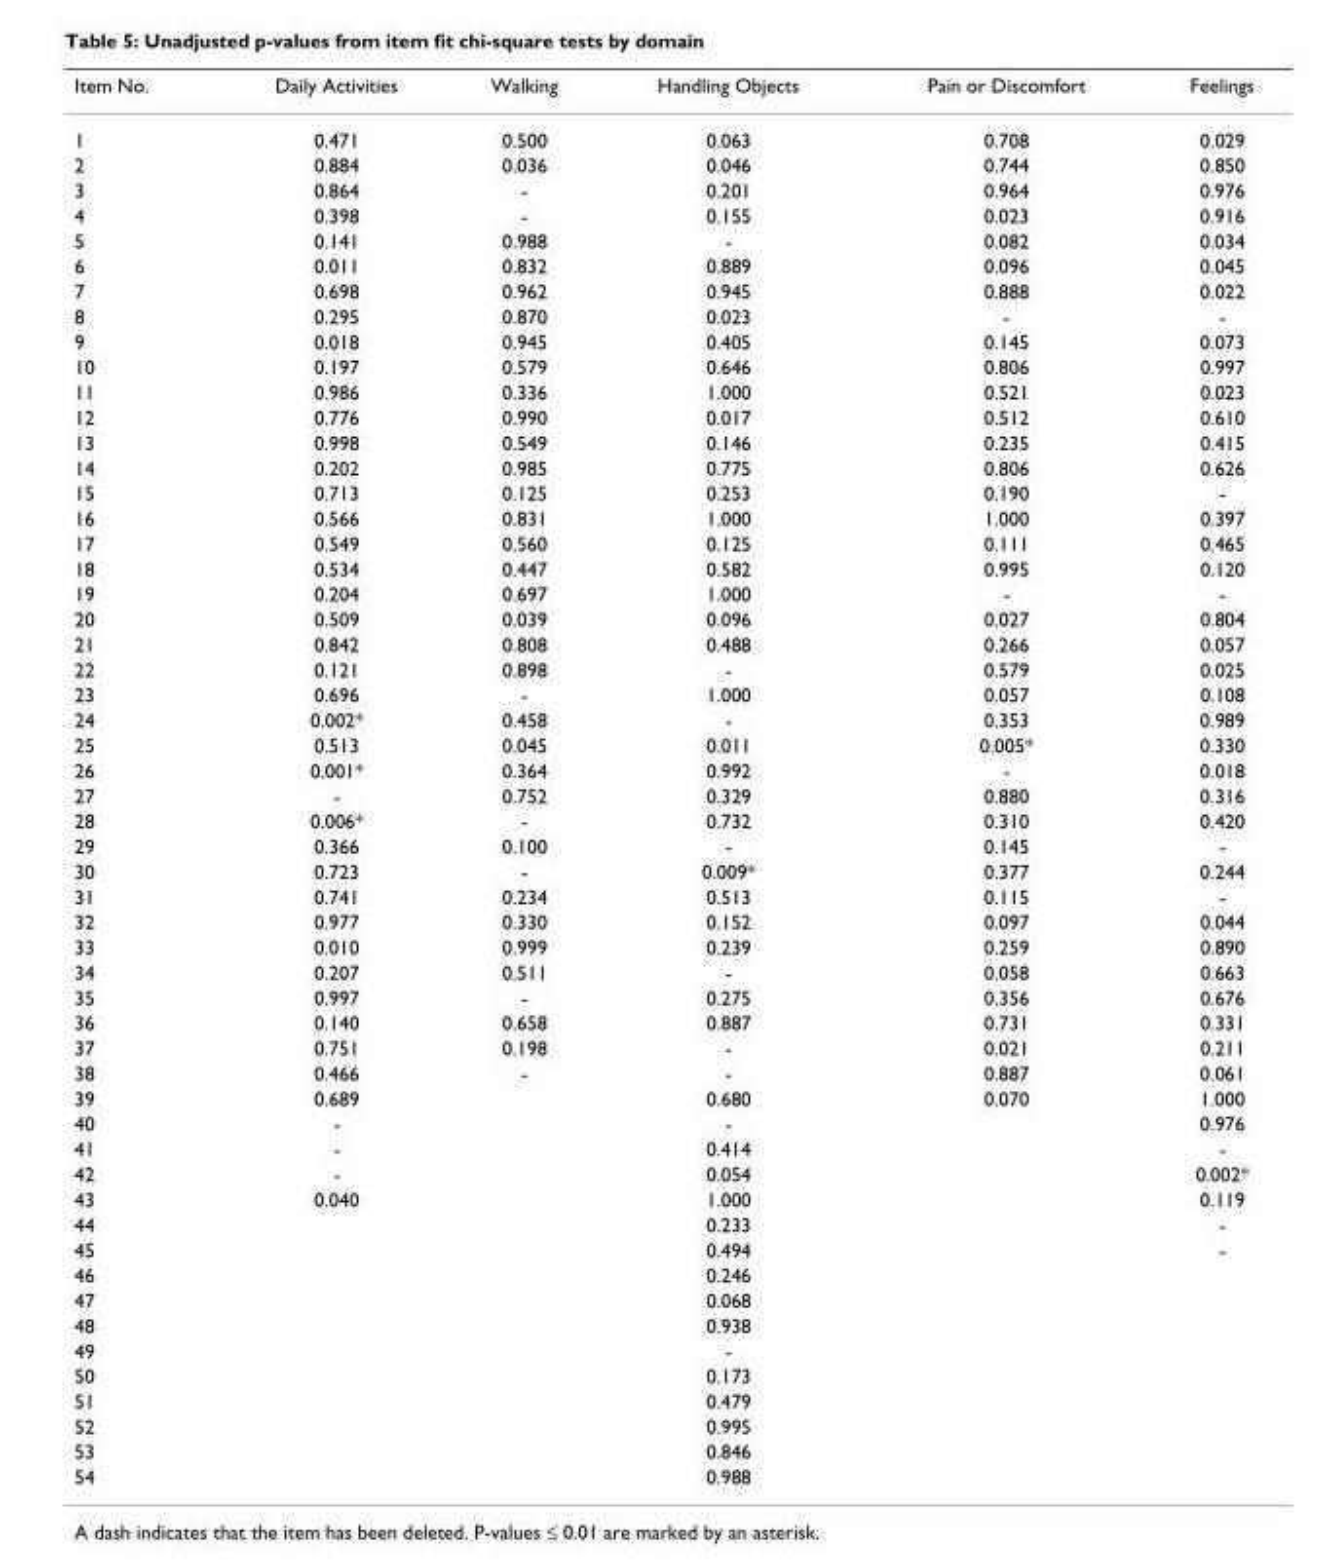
<table><thead><tr><td>Item No.</td><td>Daily Activities</td><td>Walking</td><td>Handling Objects</td><td>Pain or Discomfort</td><td>Feelings</td></tr></thead><tbody><tr><td>1</td><td>0.471</td><td>0.500</td><td>0.063</td><td>0.708</td><td>0.029</td></tr><tr><td>2</td><td>0.884</td><td>0.036</td><td>0.046</td><td>0.744</td><td>0.850</td></tr><tr><td>3</td><td>0.864</td><td>-</td><td>0.201</td><td>0.964</td><td>0.976</td></tr><tr><td>4</td><td>0.398</td><td>-</td><td>0.155</td><td>0.023</td><td>0.916</td></tr><tr><td>5</td><td>0.141</td><td>0.988</td><td>-</td><td>0.082</td><td>0.034</td></tr><tr><td>6</td><td>0.011</td><td>0.832</td><td>0.889</td><td>0.096</td><td>0.045</td></tr><tr><td>7</td><td>0.698</td><td>0.962</td><td>0.945</td><td>0.888</td><td>0.022</td></tr><tr><td>8</td><td>0.295</td><td>0.870</td><td>0.023</td><td>-</td><td>-</td></tr><tr><td>9</td><td>0.018</td><td>0.945</td><td>0.405</td><td>0.145</td><td>0.073</td></tr><tr><td>10</td><td>0.197</td><td>0.579</td><td>0.646</td><td>0.806</td><td>0.997</td></tr><tr><td>11</td><td>0.986</td><td>0.336</td><td>1.000</td><td>0.521</td><td>0.023</td></tr><tr><td>12</td><td>0.776</td><td>0.990</td><td>0.017</td><td>0.512</td><td>0.610</td></tr><tr><td>13</td><td>0.998</td><td>0.549</td><td>0.146</td><td>0.235</td><td>0.415</td></tr><tr><td>14</td><td>0.202</td><td>0.985</td><td>0.775</td><td>0.806</td><td>0.626</td></tr><tr><td>15</td><td>0.713</td><td>0.125</td><td>0.253</td><td>0.190</td><td>-</td></tr><tr><td>16</td><td>0.566</td><td>0.831</td><td>1.000</td><td>1.000</td><td>0.397</td></tr><tr><td>17</td><td>0.549</td><td>0.560</td><td>0.125</td><td>0.111</td><td>0.465</td></tr><tr><td>18</td><td>0.534</td><td>0.447</td><td>0.582</td><td>0.995</td><td>0.120</td></tr><tr><td>19</td><td>0.204</td><td>0.697</td><td>1.000</td><td>-</td><td>-</td></tr><tr><td>20</td><td>0.509</td><td>0.039</td><td>0.096</td><td>0.027</td><td>0.804</td></tr><tr><td>21</td><td>0.842</td><td>0.808</td><td>0.488</td><td>0.266</td><td>0.057</td></tr><tr><td>22</td><td>0.121</td><td>0.898</td><td>-</td><td>0.579</td><td>0.025</td></tr><tr><td>23</td><td>0.696</td><td>-</td><td>1.000</td><td>0.057</td><td>0.108</td></tr><tr><td>24</td><td>0.002*</td><td>0.458</td><td>-</td><td>0.353</td><td>0.989</td></tr><tr><td>25</td><td>0.513</td><td>0.045</td><td>0.011</td><td>0.005*</td><td>0.330</td></tr><tr><td>26</td><td>0.001*</td><td>0.364</td><td>0.992</td><td>-</td><td>0.018</td></tr><tr><td>27</td><td>-</td><td>0.752</td><td>0.329</td><td>0.880</td><td>0.316</td></tr><tr><td>28</td><td>0.006*</td><td>-</td><td>0.732</td><td>0.310</td><td>0.420</td></tr><tr><td>29</td><td>0.366</td><td>0.100</td><td>-</td><td>0.145</td><td>-</td></tr><tr><td>30</td><td>0.723</td><td>-</td><td>0.009*</td><td>0.377</td><td>0.244</td></tr><tr><td>31</td><td>0.741</td><td>0.234</td><td>0.513</td><td>0.115</td><td>-</td></tr><tr><td>32</td><td>0.977</td><td>0.330</td><td>0.152</td><td>0.097</td><td>0.044</td></tr><tr><td>33</td><td>0.010</td><td>0.999</td><td>0.239</td><td>0.259</td><td>0.890</td></tr><tr><td>34</td><td>0.207</td><td>0.511</td><td>-</td><td>0.058</td><td>0.663</td></tr><tr><td>35</td><td>0.997</td><td>-</td><td>0.275</td><td>0.356</td><td>0.676</td></tr><tr><td>36</td><td>0.140</td><td>0.658</td><td>0.887</td><td>0.731</td><td>0.331</td></tr><tr><td>37</td><td>0.751</td><td>0.198</td><td>-</td><td>0.021</td><td>0.211</td></tr><tr><td>38</td><td>0.466</td><td>-</td><td>-</td><td>0.887</td><td>0.061</td></tr><tr><td>39</td><td>0.689</td><td></td><td>0.680</td><td>0.070</td><td>1.000</td></tr><tr><td>40</td><td>-</td><td></td><td>-</td><td></td><td>0.976</td></tr><tr><td>41</td><td>-</td><td></td><td>0.414</td><td></td><td>-</td></tr><tr><td>42</td><td>-</td><td></td><td>0.054</td><td></td><td>0.002*</td></tr><tr><td>43</td><td>0.040</td><td></td><td>1.000</td><td></td><td>0.119</td></tr><tr><td>44</td><td></td><td></td><td>0.233</td><td></td><td>-</td></tr><tr><td>45</td><td></td><td></td><td>0.494</td><td></td><td>-</td></tr><tr><td>46</td><td></td><td></td><td>0.246</td><td></td><td></td></tr><tr><td>47</td><td></td><td></td><td>0.068</td><td></td><td></td></tr><tr><td>48</td><td></td><td></td><td>0.938</td><td></td><td></td></tr><tr><td>49</td><td></td><td></td><td>-</td><td></td><td></td></tr><tr><td>50</td><td></td><td></td><td>0.173</td><td></td><td></td></tr><tr><td>51</td><td></td><td></td><td>0.479</td><td></td><td></td></tr><tr><td>52</td><td></td><td></td><td>0.995</td><td></td><td></td></tr><tr><td>53</td><td></td><td></td><td>0.846</td><td></td><td></td></tr><tr><td>54</td><td></td><td></td><td>0.988</td><td></td><td></td></tr></tbody></table>